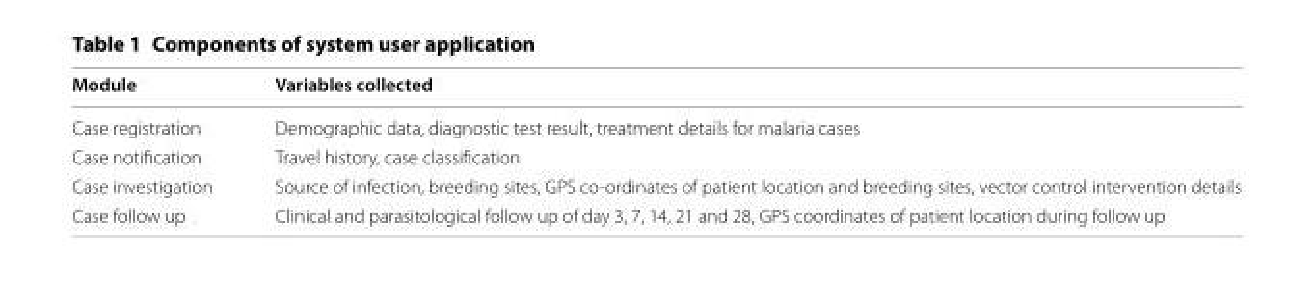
<table><thead><tr><td>Module</td><td>Variables collected</td></tr></thead><tbody><tr><td>Case registration</td><td>Demographic data, diagnostic test result, treatment details for malaria cases</td></tr><tr><td>Case notification</td><td>Travel history, case classification</td></tr><tr><td>Case investigation</td><td>Source of infection, breeding sites, GPS co-ordinates of patient location and breeding sites, vector control intervention details</td></tr><tr><td>Case follow up</td><td>Clinical and parasitological follow up of day 3, 7, 14, 21 and 28, GPS coordinates of patient location during follow up</td></tr></tbody></table>